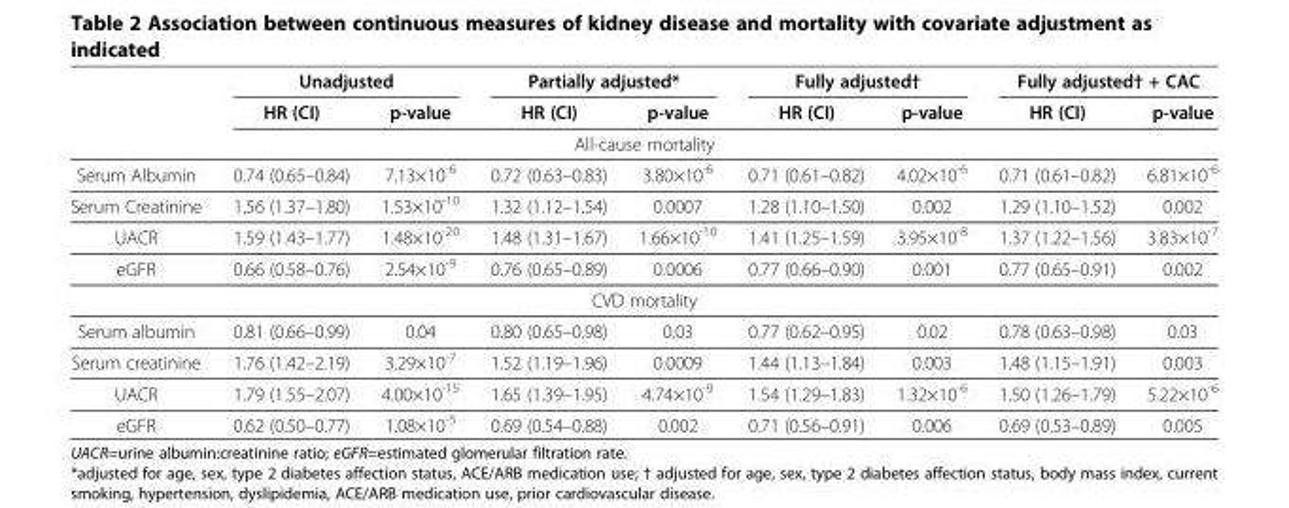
<table><thead><tr><td rowspan="2"></td><td colspan="2">Unadjusted</td><td colspan="2">Partially adjusted*</td><td colspan="2">Fully adjusted†</td><td colspan="2">Fully adjusted† + CAC</td></tr><tr><td>HR (CI)</td><td>p-value</td><td>HR (CI)</td><td>p-value</td><td>HR (CI)</td><td>p-value</td><td>HR (CI)</td><td>p-value</td></tr></thead><tbody><tr><td colspan="9">All-cause mortality</td></tr><tr><td>Serum Albumin</td><td>0.74 (0.65–0.84)</td><td>7.13×10<sup>-6</sup></td><td>0.72 (0.63–0.83)</td><td>3.80×10<sup>-6</sup></td><td>0.71 (0.61–0.82)</td><td>4.02×10<sup>-6</sup></td><td>0.71 (0.61–0.82)</td><td>6.81×10<sup>-6</sup></td></tr><tr><td>Serum Creatinine</td><td>1.56 (1.37–1.80)</td><td>1.53×10<sup>-10</sup></td><td>1.32 (1.12–1.54)</td><td>0.0007</td><td>1.28 (1.10–1.50)</td><td>0.002</td><td>1.29 (1.10–1.52)</td><td>0.002</td></tr><tr><td>UACR</td><td>1.59 (1.43–1.77)</td><td>1.48×10<sup>-20</sup></td><td>1.48 (1.31–1.67)</td><td>1.66×10<sup>-10</sup></td><td>1.41 (1.25–1.59)</td><td>3.95×10<sup>-8</sup></td><td>1.37 (1.22–1.56)</td><td>3.83×10<sup>-7</sup></td></tr><tr><td>eGFR</td><td>0.66 (0.58–0.76)</td><td>2.54×10<sup>-9</sup></td><td>0.76 (0.65–0.89)</td><td>0.0006</td><td>0.77 (0.66–0.90)</td><td>0.001</td><td>0.77 (0.65–0.91)</td><td>0.002</td></tr><tr><td colspan="9">CVD mortality</td></tr><tr><td>Serum albumin</td><td>0.81 (0.66–0.99)</td><td>0.04</td><td>0.80 (0.65–0.98)</td><td>0.03</td><td>0.77 (0.62–0.95)</td><td>0.02</td><td>0.78 (0.63–0.98)</td><td>0.03</td></tr><tr><td>Serum creatinine</td><td>1.76 (1.42–2.19)</td><td>3.29×10<sup>-7</sup></td><td>1.52 (1.19–1.96)</td><td>0.0009</td><td>1.44 (1.13–1.84)</td><td>0.003</td><td>1.48 (1.15–1.91)</td><td>0.003</td></tr><tr><td>UACR</td><td>1.79 (1.55–2.07)</td><td>4.00×10<sup>-15</sup></td><td>1.65 (1.39–1.95)</td><td>4.74×10<sup>-9</sup></td><td>1.54 (1.29–1.83)</td><td>1.32×10<sup>-6</sup></td><td>1.50 (1.26–1.79)</td><td>5.22×10<sup>-6</sup></td></tr><tr><td>eGFR</td><td>0.62 (0.50–0.77)</td><td>1.08×10<sup>-5</sup></td><td>0.69 (0.54–0.88)</td><td>0.002</td><td>0.71 (0.56–0.91)</td><td>0.006</td><td>0.69 (0.53–0.89)</td><td>0.005</td></tr></tbody></table>